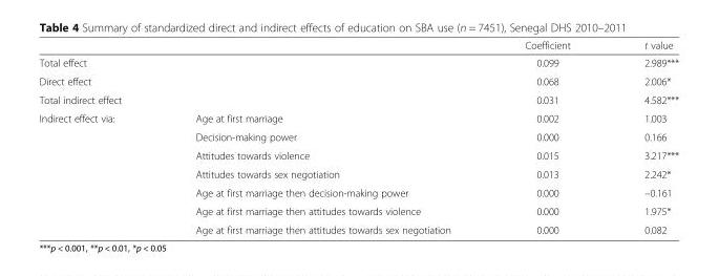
<table><thead><tr><td></td><td></td><td>Coefficient</td><td>t value</td></tr></thead><tbody><tr><td>Total effect</td><td></td><td>0.099</td><td>2.989***</td></tr><tr><td>Direct effect</td><td></td><td>0.068</td><td>2.006*</td></tr><tr><td>Total indirect effect</td><td></td><td>0.031</td><td>4.582***</td></tr><tr><td rowspan="7">Indirect effect via:</td><td>Age at first marriage</td><td>0.002</td><td>1.003</td></tr><tr><td>Decision-making power</td><td>0.000</td><td>0.166</td></tr><tr><td>Attitudes towards violence</td><td>0.015</td><td>3.217***</td></tr><tr><td>Attitudes towards sex negotiation</td><td>0.013</td><td>2.242*</td></tr><tr><td>Age at first marriage then decision-making power</td><td>0.000</td><td>–0.161</td></tr><tr><td>Age at first marriage then attitudes towards violence</td><td>0.000</td><td>1.975*</td></tr><tr><td>Age at first marriage then attitudes towards sex negotiation</td><td>0.000</td><td>0.082</td></tr></tbody></table>